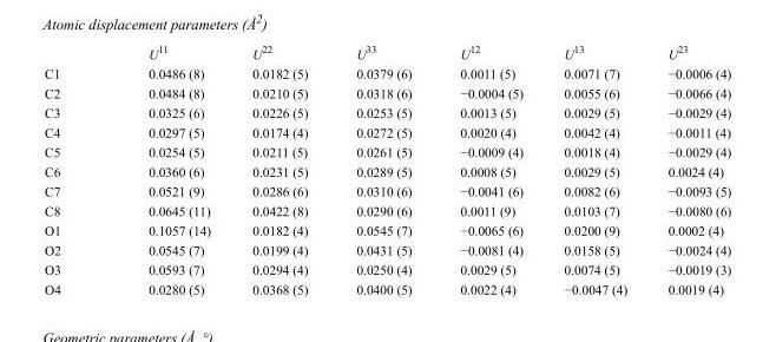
<table><thead><tr><td></td><td>U<sup>11</sup></td><td>U<sup>22</sup></td><td>U<sup>33</sup></td><td>U<sup>12</sup></td><td>U<sup>13</sup></td><td>U<sup>23</sup></td></tr></thead><tbody><tr><td>C1</td><td>0.0486 (8)</td><td>0.0182 (5)</td><td>0.0379 (6)</td><td>0.0011 (5)</td><td>0.0071 (7)</td><td>−0.0006 (4)</td></tr><tr><td>C2</td><td>0.0484 (8)</td><td>0.0210 (5)</td><td>0.0318 (6)</td><td>−0.0004 (5)</td><td>0.0055 (6)</td><td>−0.0066 (4)</td></tr><tr><td>C3</td><td>0.0325 (6)</td><td>0.0226 (5)</td><td>0.0253 (5)</td><td>0.0013 (5)</td><td>0.0029 (5)</td><td>−0.0029 (4)</td></tr><tr><td>C4</td><td>0.0297 (5)</td><td>0.0174 (4)</td><td>0.0272 (5)</td><td>0.0020 (4)</td><td>0.0042 (4)</td><td>−0.0011 (4)</td></tr><tr><td>C5</td><td>0.0254 (5)</td><td>0.0211 (5)</td><td>0.0261 (5)</td><td>−0.0009 (4)</td><td>0.0018 (4)</td><td>−0.0029 (4)</td></tr><tr><td>C6</td><td>0.0360 (6)</td><td>0.0231 (5)</td><td>0.0289 (5)</td><td>0.0008 (5)</td><td>0.0029 (5)</td><td>0.0024 (4)</td></tr><tr><td>C7</td><td>0.0521 (9)</td><td>0.0286 (6)</td><td>0.0310 (6)</td><td>−0.0041 (6)</td><td>0.0082 (6)</td><td>−0.0093 (5)</td></tr><tr><td>C8</td><td>0.0645 (11)</td><td>0.0422 (8)</td><td>0.0290 (6)</td><td>0.0011 (9)</td><td>0.0103 (7)</td><td>−0.0080 (6)</td></tr><tr><td>O1</td><td>0.1057 (14)</td><td>0.0182 (4)</td><td>0.0545 (7)</td><td>−0.0065 (6)</td><td>0.0200 (9)</td><td>0.0002 (4)</td></tr><tr><td>O2</td><td>0.0545 (7)</td><td>0.0199 (4)</td><td>0.0431 (5)</td><td>−0.0081 (4)</td><td>0.0158 (5)</td><td>−0.0024 (4)</td></tr><tr><td>O3</td><td>0.0593 (7)</td><td>0.0294 (4)</td><td>0.0250 (4)</td><td>0.0029 (5)</td><td>0.0074 (5)</td><td>−0.0019 (3)</td></tr><tr><td>O4</td><td>0.0280 (5)</td><td>0.0368 (5)</td><td>0.0400 (5)</td><td>0.0022 (4)</td><td>−0.0047 (4)</td><td>0.0019 (4)</td></tr></tbody></table>